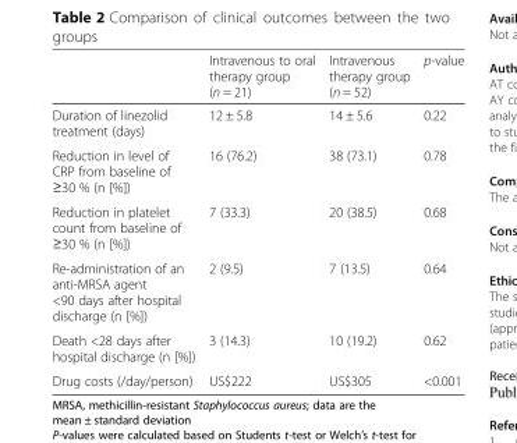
<table><thead><tr><td></td><td>Intravenous to oral therapy group (n = 21)</td><td>Intravenous therapy group (n = 52)</td><td>p-value</td></tr></thead><tbody><tr><td>Duration of linezolid treatment (days)</td><td>12 ± 5.8</td><td>14 ± 5.6</td><td>0.22</td></tr><tr><td>Reduction in level of CRP from baseline of ≥30 % (n [%])</td><td>16 (76.2)</td><td>38 (73.1)</td><td>0.78</td></tr><tr><td>Reduction in platelet count from baseline of ≥30 % (n [%])</td><td>7 (33.3)</td><td>20 (38.5)</td><td>0.68</td></tr><tr><td>Re-administration of an anti-MRSA agent &lt;90 days after hospital discharge (n [%])</td><td>2 (9.5)</td><td>7 (13.5)</td><td>0.64</td></tr><tr><td>Death &lt;28 days after hospital discharge (n [%])</td><td>3 (14.3)</td><td>10 (19.2)</td><td>0.62</td></tr><tr><td>Drug costs (/day/person)</td><td>US$222</td><td>US$305</td><td>&lt;0.001</td></tr></tbody></table>